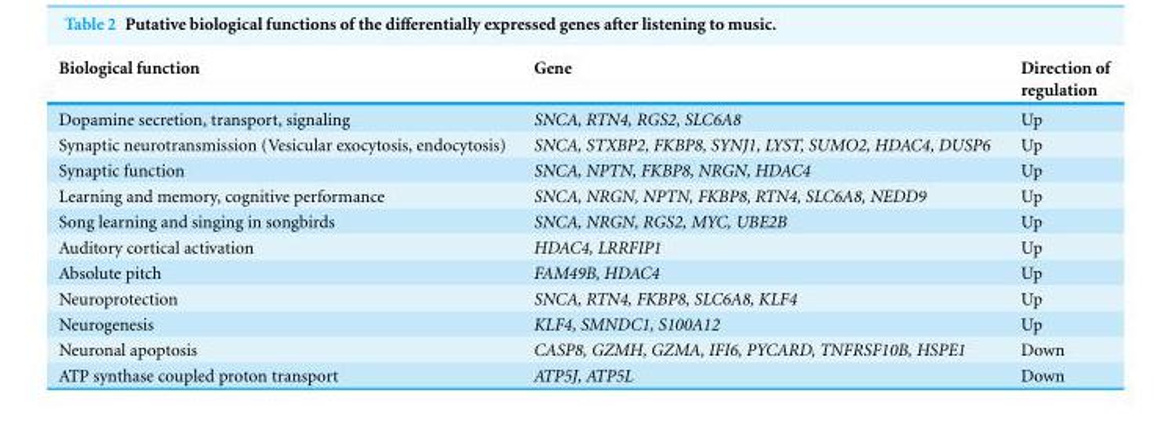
<table><thead><tr><td>Biological function</td><td>Gene</td><td>Direction of regulation</td></tr></thead><tbody><tr><td>Dopamine secretion, transport, signaling</td><td>SNCA, RTN4, RGS2, SLC6A8</td><td>Up</td></tr><tr><td>Synaptic neurotransmission (Vesicular exocytosis, endocytosis)</td><td>SNCA, STXBP2, FKBP8, SYNJ1, LYST, SUMO2, HDAC4, DUSP6</td><td>Up</td></tr><tr><td>Synaptic function</td><td>SNCA, NPTN, FKBP8, NRGN, HDAC4</td><td>Up</td></tr><tr><td>Learning and memory, cognitive performance</td><td>SNCA, NRGN, NPTN, FKBP8, RTN4, SLC6A8, NEDD9</td><td>Up</td></tr><tr><td>Song learning and singing in songbirds</td><td>SNCA, NRGN, RGS2, MYC, UBE2B</td><td>Up</td></tr><tr><td>Auditory cortical activation</td><td>HDAC4, LRRFIP1</td><td>Up</td></tr><tr><td>Absolute pitch</td><td>FAM49B, HDAC4</td><td>Up</td></tr><tr><td>Neuroprotection</td><td>SNCA, RTN4, FKBP8, SLC6A8, KLF4</td><td>Up</td></tr><tr><td>Neurogenesis</td><td>KLF4, SMNDC1, S100A12</td><td>Up</td></tr><tr><td>Neuronal apoptosis</td><td>CASP8, GZMH, GZMA, IFI6, PYCARD, TNFRSF10B, HSPE1</td><td>Down</td></tr><tr><td>ATP synthase coupled proton transport</td><td>ATP5J, ATP5L</td><td>Down</td></tr></tbody></table>